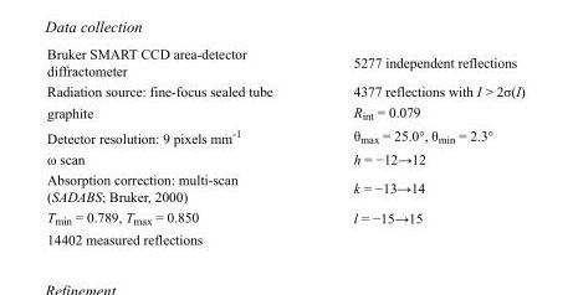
<table><tbody><tr><td>Bruker SMART CCD area-detector diffractometer</td><td>5277 independent reflections</td></tr><tr><td>Radiation source: fine-focus sealed tube</td><td>4377 reflections with I &gt; 2σ(I)</td></tr><tr><td>graphite</td><td>R<sub>int</sub> = 0.079</td></tr><tr><td>Detector resolution: 9 pixels mm<sup>-1</sup></td><td>θ<sub>max</sub> = 25.0°, θ<sub>min</sub> = 2.3°</td></tr><tr><td>ω scan</td><td>h = −12→12</td></tr><tr><td>Absorption correction: multi-scan (SADABS; Bruker, 2000)</td><td>k = −13→14</td></tr><tr><td>T<sub>min</sub> = 0.789, T<sub>max</sub> = 0.850</td><td>l = −15→15</td></tr><tr><td>14402 measured reflections</td><td></td></tr></tbody></table>